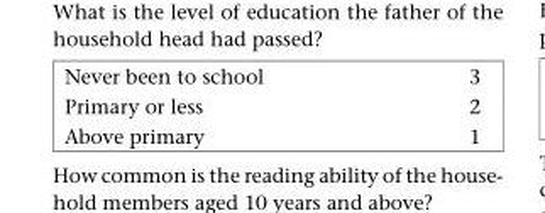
<table><tbody><tr><td>Never been to school</td><td>3</td></tr><tr><td>Primary or less</td><td>2</td></tr><tr><td>Above primary</td><td>1</td></tr></tbody></table>